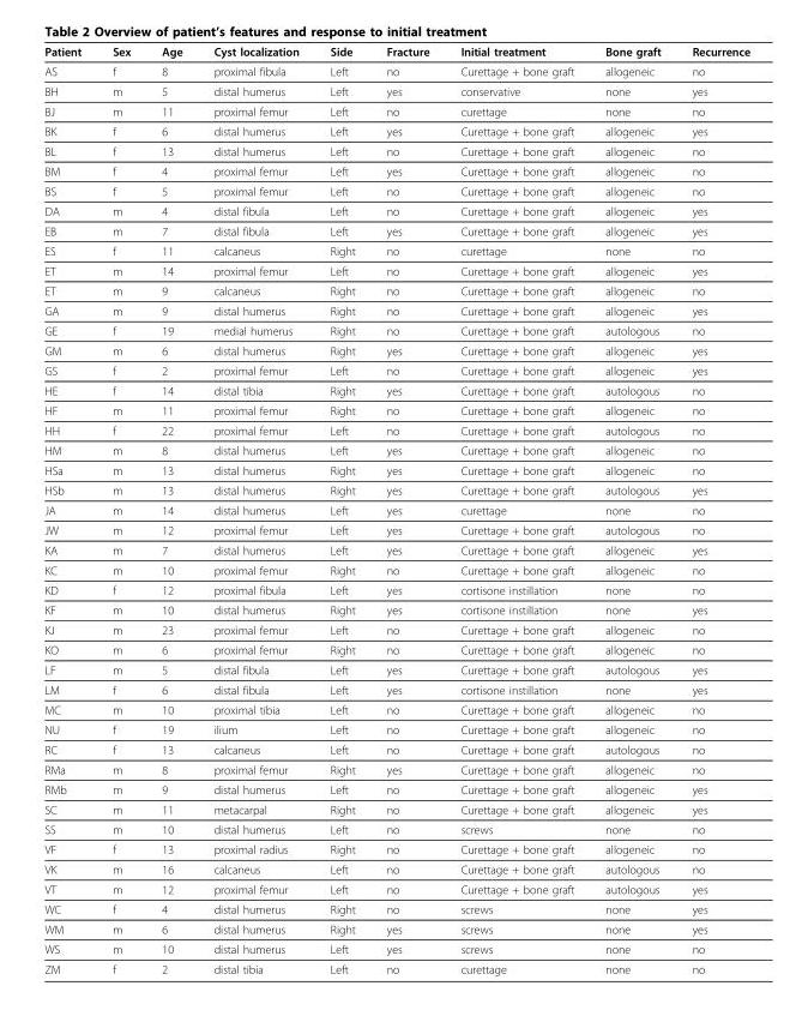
<table><thead><tr><td>Patient</td><td>Sex</td><td>Age</td><td>Cyst localization</td><td>Side</td><td>Fracture</td><td>Initial treatment</td><td>Bone graft</td><td>Recurrence</td></tr></thead><tbody><tr><td>AS</td><td>f</td><td>8</td><td>proximal fibula</td><td>Left</td><td>no</td><td>Curettage + bone graft</td><td>allogeneic</td><td>no</td></tr><tr><td>BH</td><td>m</td><td>5</td><td>distal humerus</td><td>Left</td><td>yes</td><td>conservative</td><td>none</td><td>yes</td></tr><tr><td>BJ</td><td>m</td><td>11</td><td>proximal femur</td><td>Left</td><td>no</td><td>curettage</td><td>none</td><td>no</td></tr><tr><td>BK</td><td>f</td><td>6</td><td>distal humerus</td><td>Left</td><td>yes</td><td>Curettage + bone graft</td><td>allogeneic</td><td>yes</td></tr><tr><td>BL</td><td>f</td><td>13</td><td>distal humerus</td><td>Left</td><td>no</td><td>Curettage + bone graft</td><td>allogeneic</td><td>no</td></tr><tr><td>BM</td><td>f</td><td>4</td><td>proximal femur</td><td>Left</td><td>yes</td><td>Curettage + bone graft</td><td>allogeneic</td><td>no</td></tr><tr><td>BS</td><td>f</td><td>5</td><td>proximal femur</td><td>Left</td><td>no</td><td>Curettage + bone graft</td><td>allogeneic</td><td>no</td></tr><tr><td>DA</td><td>m</td><td>4</td><td>distal fibula</td><td>Left</td><td>no</td><td>Curettage + bone graft</td><td>allogeneic</td><td>yes</td></tr><tr><td>EB</td><td>m</td><td>7</td><td>distal fibula</td><td>Left</td><td>yes</td><td>Curettage + bone graft</td><td>allogeneic</td><td>yes</td></tr><tr><td>ES</td><td>f</td><td>11</td><td>calcaneus</td><td>Right</td><td>no</td><td>curettage</td><td>none</td><td>no</td></tr><tr><td>ET</td><td>m</td><td>14</td><td>proximal femur</td><td>Left</td><td>no</td><td>Curettage + bone graft</td><td>allogeneic</td><td>yes</td></tr><tr><td>ET</td><td>m</td><td>9</td><td>calcaneus</td><td>Right</td><td>no</td><td>Curettage + bone graft</td><td>allogeneic</td><td>no</td></tr><tr><td>GA</td><td>m</td><td>9</td><td>distal humerus</td><td>Right</td><td>no</td><td>Curettage + bone graft</td><td>allogeneic</td><td>yes</td></tr><tr><td>GE</td><td>f</td><td>19</td><td>medial humerus</td><td>Right</td><td>no</td><td>Curettage + bone graft</td><td>autologous</td><td>no</td></tr><tr><td>GM</td><td>m</td><td>6</td><td>distal humerus</td><td>Right</td><td>yes</td><td>Curettage + bone graft</td><td>allogeneic</td><td>yes</td></tr><tr><td>GS</td><td>f</td><td>2</td><td>proximal femur</td><td>Left</td><td>no</td><td>Curettage + bone graft</td><td>allogeneic</td><td>yes</td></tr><tr><td>HE</td><td>f</td><td>14</td><td>distal tibia</td><td>Right</td><td>yes</td><td>Curettage + bone graft</td><td>autologous</td><td>no</td></tr><tr><td>HF</td><td>m</td><td>11</td><td>proximal femur</td><td>Right</td><td>no</td><td>Curettage + bone graft</td><td>allogeneic</td><td>no</td></tr><tr><td>HH</td><td>f</td><td>22</td><td>proximal femur</td><td>Left</td><td>no</td><td>Curettage + bone graft</td><td>autologous</td><td>no</td></tr><tr><td>HM</td><td>m</td><td>8</td><td>distal humerus</td><td>Left</td><td>yes</td><td>Curettage + bone graft</td><td>allogeneic</td><td>no</td></tr><tr><td>HSa</td><td>m</td><td>13</td><td>distal humerus</td><td>Right</td><td>yes</td><td>Curettage + bone graft</td><td>allogeneic</td><td>no</td></tr><tr><td>HSb</td><td>m</td><td>13</td><td>distal humerus</td><td>Right</td><td>yes</td><td>Curettage + bone graft</td><td>autologous</td><td>yes</td></tr><tr><td>JA</td><td>m</td><td>14</td><td>distal humerus</td><td>Left</td><td>yes</td><td>curettage</td><td>none</td><td>no</td></tr><tr><td>JW</td><td>m</td><td>12</td><td>proximal femur</td><td>Left</td><td>yes</td><td>Curettage + bone graft</td><td>autologous</td><td>no</td></tr><tr><td>KA</td><td>m</td><td>7</td><td>distal humerus</td><td>Left</td><td>yes</td><td>Curettage + bone graft</td><td>allogeneic</td><td>yes</td></tr><tr><td>KC</td><td>m</td><td>10</td><td>proximal femur</td><td>Right</td><td>no</td><td>Curettage + bone graft</td><td>allogeneic</td><td>no</td></tr><tr><td>KD</td><td>f</td><td>12</td><td>proximal fibula</td><td>Left</td><td>yes</td><td>cortisone instillation</td><td>none</td><td>no</td></tr><tr><td>KF</td><td>m</td><td>10</td><td>distal humerus</td><td>Right</td><td>yes</td><td>cortisone instillation</td><td>none</td><td>yes</td></tr><tr><td>KJ</td><td>m</td><td>23</td><td>proximal femur</td><td>Left</td><td>no</td><td>Curettage + bone graft</td><td>allogeneic</td><td>no</td></tr><tr><td>KO</td><td>m</td><td>6</td><td>proximal femur</td><td>Right</td><td>no</td><td>Curettage + bone graft</td><td>allogeneic</td><td>no</td></tr><tr><td>LF</td><td>m</td><td>5</td><td>distal fibula</td><td>Left</td><td>yes</td><td>Curettage + bone graft</td><td>autologous</td><td>yes</td></tr><tr><td>LM</td><td>f</td><td>6</td><td>distal fibula</td><td>Left</td><td>yes</td><td>cortisone instillation</td><td>none</td><td>yes</td></tr><tr><td>MC</td><td>m</td><td>10</td><td>proximal tibia</td><td>Left</td><td>no</td><td>Curettage + bone graft</td><td>allogeneic</td><td>no</td></tr><tr><td>NU</td><td>f</td><td>19</td><td>ilium</td><td>Left</td><td>no</td><td>Curettage + bone graft</td><td>allogeneic</td><td>no</td></tr><tr><td>RC</td><td>f</td><td>13</td><td>calcaneus</td><td>Left</td><td>no</td><td>Curettage + bone graft</td><td>autologous</td><td>no</td></tr><tr><td>RMa</td><td>m</td><td>8</td><td>proximal femur</td><td>Right</td><td>yes</td><td>Curettage + bone graft</td><td>allogeneic</td><td>no</td></tr><tr><td>RMb</td><td>m</td><td>9</td><td>distal humerus</td><td>Left</td><td>no</td><td>Curettage + bone graft</td><td>allogeneic</td><td>yes</td></tr><tr><td>SC</td><td>m</td><td>11</td><td>metacarpal</td><td>Right</td><td>no</td><td>Curettage + bone graft</td><td>allogeneic</td><td>yes</td></tr><tr><td>SS</td><td>m</td><td>10</td><td>distal humerus</td><td>Left</td><td>no</td><td>screws</td><td>none</td><td>no</td></tr><tr><td>VF</td><td>f</td><td>13</td><td>proximal radius</td><td>Right</td><td>no</td><td>Curettage + bone graft</td><td>allogeneic</td><td>no</td></tr><tr><td>VK</td><td>m</td><td>16</td><td>calcaneus</td><td>Left</td><td>no</td><td>Curettage + bone graft</td><td>autologous</td><td>no</td></tr><tr><td>VT</td><td>m</td><td>12</td><td>proximal femur</td><td>Left</td><td>no</td><td>Curettage + bone graft</td><td>autologous</td><td>yes</td></tr><tr><td>WC</td><td>f</td><td>4</td><td>distal humerus</td><td>Right</td><td>no</td><td>screws</td><td>none</td><td>yes</td></tr><tr><td>WM</td><td>m</td><td>6</td><td>distal humerus</td><td>Right</td><td>yes</td><td>screws</td><td>none</td><td>yes</td></tr><tr><td>WS</td><td>m</td><td>10</td><td>distal humerus</td><td>Left</td><td>yes</td><td>screws</td><td>none</td><td>no</td></tr><tr><td>ZM</td><td>f</td><td>2</td><td>distal tibia</td><td>Left</td><td>no</td><td>curettage</td><td>none</td><td>no</td></tr></tbody></table>